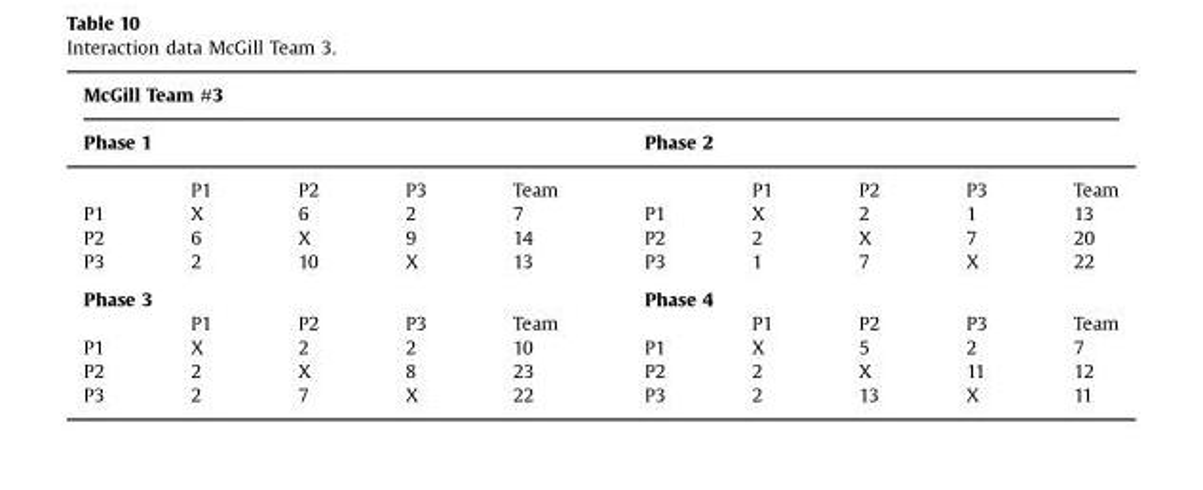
<table><thead><tr><td colspan="10">McGill Team #3</td></tr><tr><td colspan="5">Phase 1</td><td colspan="5">Phase 2</td></tr><tr><td></td><td>P1</td><td>P2</td><td>P3</td><td>Team</td><td></td><td>P1</td><td>P2</td><td>P3</td><td>Team</td></tr></thead><tbody><tr><td>P1</td><td>X</td><td>6</td><td>2</td><td>7</td><td>P1</td><td>X</td><td>2</td><td>1</td><td>13</td></tr><tr><td>P2</td><td>6</td><td>X</td><td>9</td><td>14</td><td>P2</td><td>2</td><td>X</td><td>7</td><td>20</td></tr><tr><td>P3</td><td>2</td><td>10</td><td>X</td><td>13</td><td>P3</td><td>1</td><td>7</td><td>X</td><td>22</td></tr><tr><td colspan="5">Phase 3</td><td colspan="5">Phase 4</td></tr><tr><td></td><td>P1</td><td>P2</td><td>P3</td><td>Team</td><td></td><td>P1</td><td>P2</td><td>P3</td><td>Team</td></tr><tr><td>P1</td><td>X</td><td>2</td><td>2</td><td>10</td><td>P1</td><td>X</td><td>5</td><td>2</td><td>7</td></tr><tr><td>P2</td><td>2</td><td>X</td><td>8</td><td>23</td><td>P2</td><td>2</td><td>X</td><td>11</td><td>12</td></tr><tr><td>P3</td><td>2</td><td>7</td><td>X</td><td>22</td><td>P3</td><td>2</td><td>13</td><td>X</td><td>11</td></tr></tbody></table>